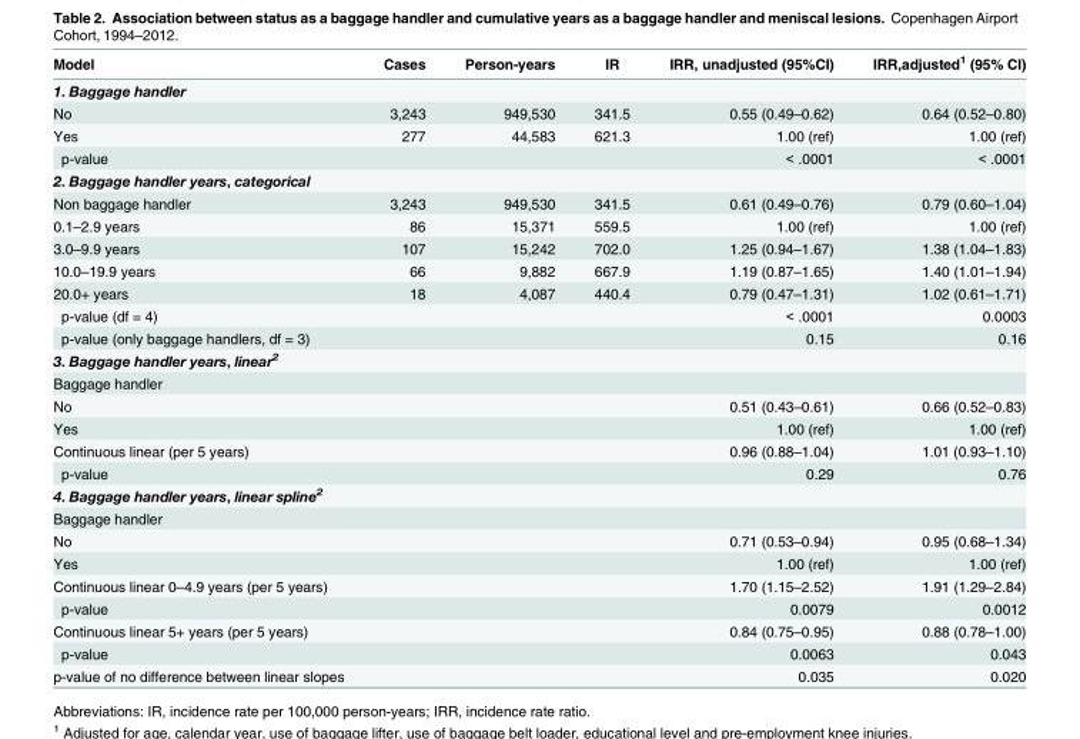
<table><thead><tr><td>Model</td><td>Cases</td><td>Person-years</td><td>IR</td><td>IRR, unadjusted (95%CI)</td><td>IRR,adjusted<sup>1</sup> (95% CI)</td></tr></thead><tbody><tr><td colspan="6">1. Baggage handler</td></tr><tr><td>No</td><td>3,243</td><td>949,530</td><td>341.5</td><td>0.55 (0.49–0.62)</td><td>0.64 (0.52–0.80)</td></tr><tr><td>Yes</td><td>277</td><td>44,583</td><td>621.3</td><td>1.00 (ref)</td><td>1.00 (ref)</td></tr><tr><td>p-value</td><td></td><td></td><td></td><td>&lt; .0001</td><td>&lt; .0001</td></tr><tr><td colspan="6">2. Baggage handler years, categorical</td></tr><tr><td>Non baggage handler</td><td>3,243</td><td>949,530</td><td>341.5</td><td>0.61 (0.49–0.76)</td><td>0.79 (0.60–1.04)</td></tr><tr><td>0.1–2.9 years</td><td>86</td><td>15,371</td><td>559.5</td><td>1.00 (ref)</td><td>1.00 (ref)</td></tr><tr><td>3.0–9.9 years</td><td>107</td><td>15,242</td><td>702.0</td><td>1.25 (0.94–1.67)</td><td>1.38 (1.04–1.83)</td></tr><tr><td>10.0–19.9 years</td><td>66</td><td>9,882</td><td>667.9</td><td>1.19 (0.87–1.65)</td><td>1.40 (1.01–1.94)</td></tr><tr><td>20.0+ years</td><td>18</td><td>4,087</td><td>440.4</td><td>0.79 (0.47–1.31)</td><td>1.02 (0.61–1.71)</td></tr><tr><td>p-value (df = 4)</td><td></td><td></td><td></td><td>&lt; .0001</td><td>0.0003</td></tr><tr><td>p-value (only baggage handlers, df = 3)</td><td></td><td></td><td></td><td>0.15</td><td>0.16</td></tr><tr><td colspan="6">3. Baggage handler years, linear<sup>2</sup></td></tr><tr><td colspan="6">Baggage handler</td></tr><tr><td>No</td><td></td><td></td><td></td><td>0.51 (0.43–0.61)</td><td>0.66 (0.52–0.83)</td></tr><tr><td>Yes</td><td></td><td></td><td></td><td>1.00 (ref)</td><td>1.00 (ref)</td></tr><tr><td>Continuous linear (per 5 years)</td><td></td><td></td><td></td><td>0.96 (0.88–1.04)</td><td>1.01 (0.93–1.10)</td></tr><tr><td>p-value</td><td></td><td></td><td></td><td>0.29</td><td>0.76</td></tr><tr><td colspan="6">4. Baggage handler years, linear spline<sup>2</sup></td></tr><tr><td colspan="6">Baggage handler</td></tr><tr><td>No</td><td></td><td></td><td></td><td>0.71 (0.53–0.94)</td><td>0.95 (0.68–1.34)</td></tr><tr><td>Yes</td><td></td><td></td><td></td><td>1.00 (ref)</td><td>1.00 (ref)</td></tr><tr><td>Continuous linear 0–4.9 years (per 5 years)</td><td></td><td></td><td></td><td>1.70 (1.15–2.52)</td><td>1.91 (1.29–2.84)</td></tr><tr><td>p-value</td><td></td><td></td><td></td><td>0.0079</td><td>0.0012</td></tr><tr><td>Continuous linear 5+ years (per 5 years)</td><td></td><td></td><td></td><td>0.84 (0.75–0.95)</td><td>0.88 (0.78–1.00)</td></tr><tr><td>p-value</td><td></td><td></td><td></td><td>0.0063</td><td>0.043</td></tr><tr><td>p-value of no difference between linear slopes</td><td></td><td></td><td></td><td>0.035</td><td>0.020</td></tr></tbody></table>